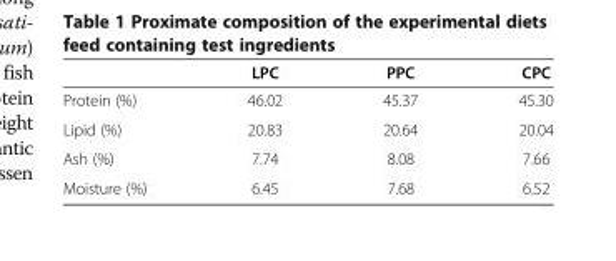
<table><thead><tr><td></td><td>LPC</td><td>PPC</td><td>CPC</td></tr></thead><tbody><tr><td>Protein (%)</td><td>46.02</td><td>45.37</td><td>45.30</td></tr><tr><td>Lipid (%)</td><td>20.83</td><td>20.64</td><td>20.04</td></tr><tr><td>Ash (%)</td><td>7.74</td><td>8.08</td><td>7.66</td></tr><tr><td>Moisture (%)</td><td>6.45</td><td>7.68</td><td>6.52</td></tr></tbody></table>